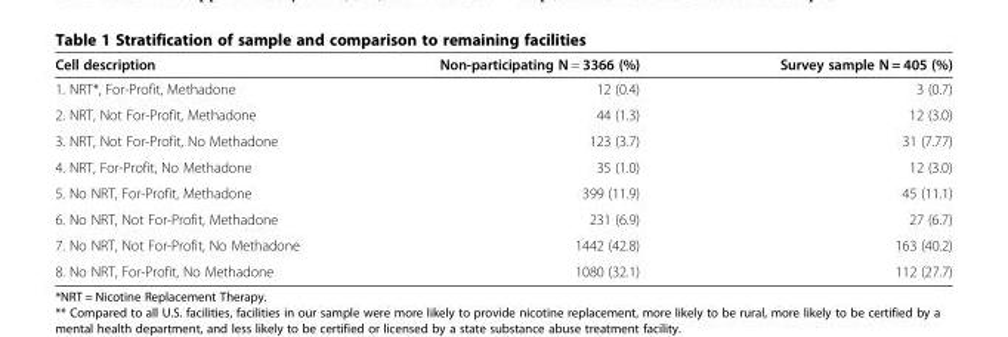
<table><thead><tr><td>Cell description</td><td>Non-participating N = 3366 (%)</td><td>Survey sample N = 405 (%)</td></tr></thead><tbody><tr><td>1. NRT*, For-Profit, Methadone</td><td>12 (0.4)</td><td>3 (0.7)</td></tr><tr><td>2. NRT, Not For-Profit, Methadone</td><td>44 (1.3)</td><td>12 (3.0)</td></tr><tr><td>3. NRT, Not For-Profit, No Methadone</td><td>123 (3.7)</td><td>31 (7.77)</td></tr><tr><td>4. NRT, For-Profit, No Methadone</td><td>35 (1.0)</td><td>12 (3.0)</td></tr><tr><td>5. No NRT, For-Profit, Methadone</td><td>399 (11.9)</td><td>45 (11.1)</td></tr><tr><td>6. No NRT, Not For-Profit, Methadone</td><td>231 (6.9)</td><td>27 (6.7)</td></tr><tr><td>7. No NRT, Not For-Profit, No Methadone</td><td>1442 (42.8)</td><td>163 (40.2)</td></tr><tr><td>8. No NRT, For-Profit, No Methadone</td><td>1080 (32.1)</td><td>112 (27.7)</td></tr></tbody></table>